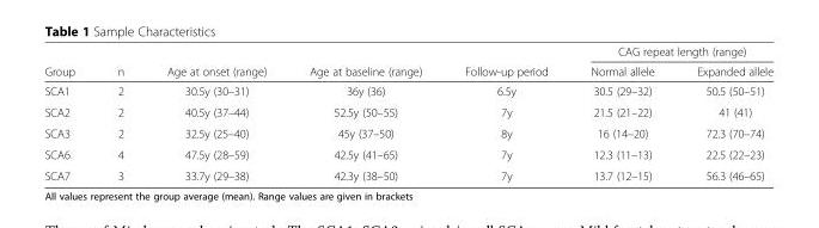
<table><thead><tr><td rowspan="2">Group</td><td rowspan="2">n</td><td rowspan="2">Age at onset (range)</td><td rowspan="2">Age at baseline (range)</td><td rowspan="2">Follow-up period</td><td colspan="2">CAG repeat length (range)</td></tr><tr><td>Normal allele</td><td>Expanded allele</td></tr></thead><tbody><tr><td>SCA1</td><td>2</td><td>30.5y (30–31)</td><td>36y (36)</td><td>6.5y</td><td>30.5 (29–32)</td><td>50.5 (50–51)</td></tr><tr><td>SCA2</td><td>2</td><td>40.5y (37–44)</td><td>52.5y (50–55)</td><td>7y</td><td>21.5 (21–22)</td><td>41 (41)</td></tr><tr><td>SCA3</td><td>2</td><td>32.5y (25–40)</td><td>45y (37–50)</td><td>8y</td><td>16 (14–20)</td><td>72.3 (70–74)</td></tr><tr><td>SCA6</td><td>4</td><td>47.5y (28–59)</td><td>42.5y (41–65)</td><td>7y</td><td>12.3 (11–13)</td><td>22.5 (22–23)</td></tr><tr><td>SCA7</td><td>3</td><td>33.7y (29–38)</td><td>42.3y (38–50)</td><td>7y</td><td>13.7 (12–15)</td><td>56.3 (46–65)</td></tr></tbody></table>